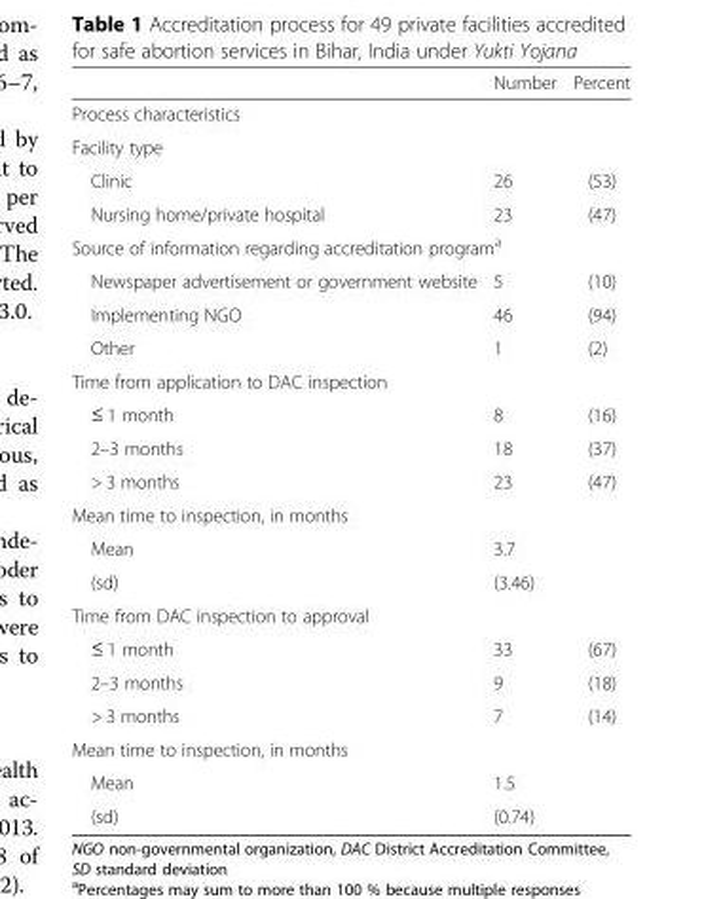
<table><thead><tr><td></td><td>Number</td><td>Percent</td></tr></thead><tbody><tr><td colspan="3">Process characteristics</td></tr><tr><td colspan="3">Facility type</td></tr><tr><td>Clinic</td><td>26</td><td>(53)</td></tr><tr><td>Nursing home/private hospital</td><td>23</td><td>(47)</td></tr><tr><td colspan="3">Source of information regarding accreditation program<sup>a</sup></td></tr><tr><td>Newspaper advertisement or government website</td><td>5</td><td>(10)</td></tr><tr><td>Implementing NGO</td><td>46</td><td>(94)</td></tr><tr><td>Other</td><td>1</td><td>(2)</td></tr><tr><td colspan="3">Time from application to DAC inspection</td></tr><tr><td>≤ 1 month</td><td>8</td><td>(16)</td></tr><tr><td>2–3 months</td><td>18</td><td>(37)</td></tr><tr><td>&gt; 3 months</td><td>23</td><td>(47)</td></tr><tr><td colspan="3">Mean time to inspection, in months</td></tr><tr><td>Mean</td><td>3.7</td><td></td></tr><tr><td>(sd)</td><td>(3.46)</td><td></td></tr><tr><td colspan="3">Time from DAC inspection to approval</td></tr><tr><td>≤ 1 month</td><td>33</td><td>(67)</td></tr><tr><td>2–3 months</td><td>9</td><td>(18)</td></tr><tr><td>&gt; 3 months</td><td>7</td><td>(14)</td></tr><tr><td colspan="3">Mean time to inspection, in months</td></tr><tr><td>Mean</td><td>1.5</td><td></td></tr><tr><td>(sd)</td><td>(0.74)</td><td></td></tr></tbody></table>